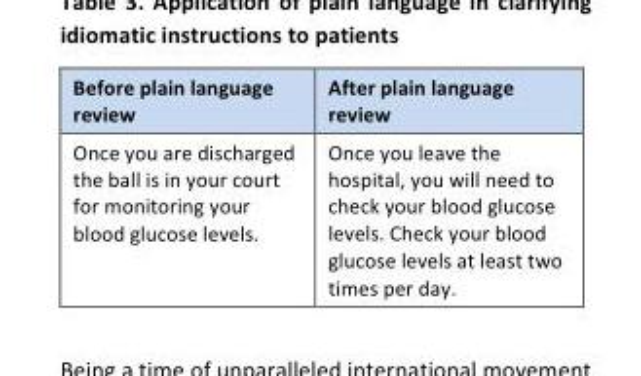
<table><thead><tr><td>Before plain language review</td><td>After plain language review</td></tr></thead><tbody><tr><td>Once you are discharged the ball is in your court for monitoring your blood glucose levels.</td><td>Once you leave the hospital, you will need to check your blood glucose levels. Check your blood glucose levels at least two times per day.</td></tr></tbody></table>